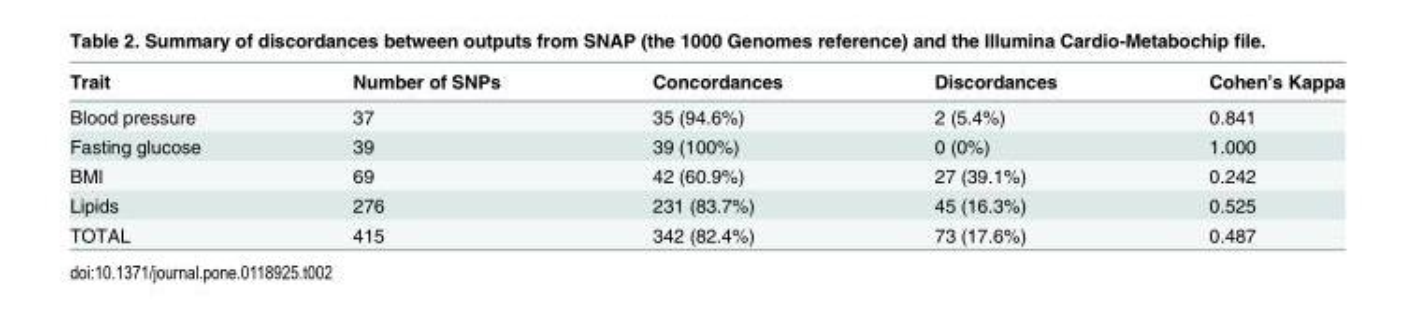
<table><thead><tr><td>Trait</td><td>Number of SNPs</td><td>Concordances</td><td>Discordances</td><td>Cohen’s Kappa</td></tr></thead><tbody><tr><td>Blood pressure</td><td>37</td><td>35 (94.6%)</td><td>2 (5.4%)</td><td>0.841</td></tr><tr><td>Fasting glucose</td><td>39</td><td>39 (100%)</td><td>0 (0%)</td><td>1.000</td></tr><tr><td>BMI</td><td>69</td><td>42 (60.9%)</td><td>27 (39.1%)</td><td>0.242</td></tr><tr><td>Lipids</td><td>276</td><td>231 (83.7%)</td><td>45 (16.3%)</td><td>0.525</td></tr><tr><td>TOTAL</td><td>415</td><td>342 (82.4%)</td><td>73 (17.6%)</td><td>0.487</td></tr></tbody></table>